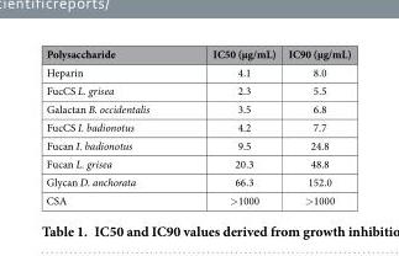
<table><thead><tr><td>Polysaccharide</td><td>IC50 (μg/mL)</td><td>IC90 (μg/mL)</td></tr></thead><tbody><tr><td>Heparin</td><td>4.1</td><td>8.0</td></tr><tr><td>FucCS L. grisea</td><td>2.3</td><td>5.5</td></tr><tr><td>Galactan B. occidentalis</td><td>3.5</td><td>6.8</td></tr><tr><td>FucCS I. badionotus</td><td>4.2</td><td>7.7</td></tr><tr><td>Fucan I. badionotus</td><td>9.5</td><td>24.8</td></tr><tr><td>Fucan L. grisea</td><td>20.3</td><td>48.8</td></tr><tr><td>Glycan D. anchorata</td><td>66.3</td><td>152.0</td></tr><tr><td>CSA</td><td>&gt;1000</td><td>&gt;1000</td></tr></tbody></table>